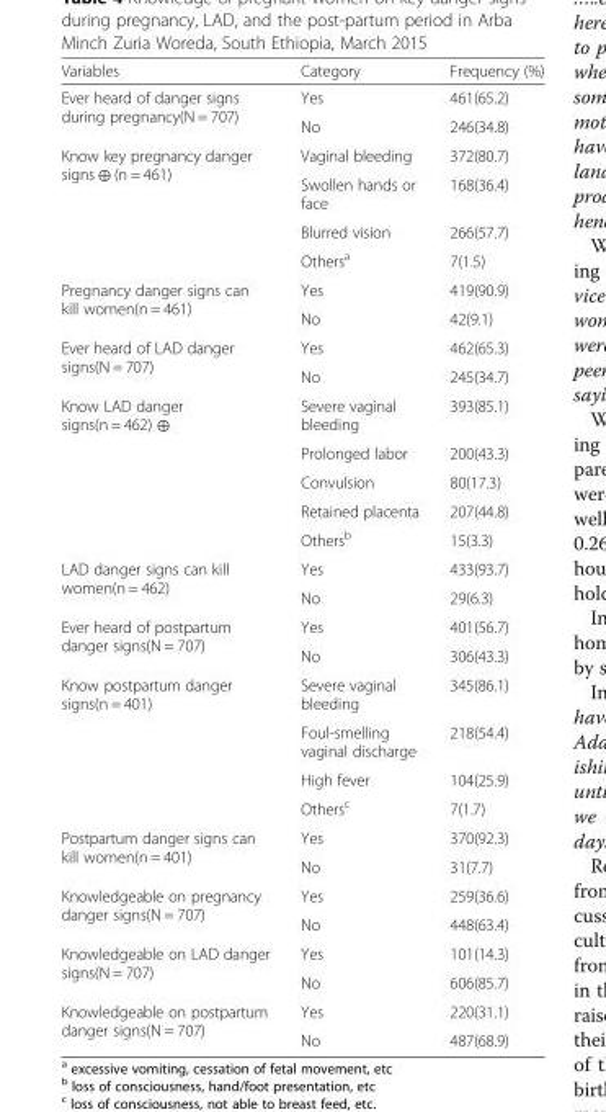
<table><thead><tr><td>Variables</td><td>Category</td><td>Frequency (%)</td></tr></thead><tbody><tr><td rowspan="2">Ever heard of danger signs during pregnancy(N = 707)</td><td>Yes</td><td>461(65.2)</td></tr><tr><td>No</td><td>246(34.8)</td></tr><tr><td rowspan="4">Know key pregnancy danger signs ⊕ (n = 461)</td><td>Vaginal bleeding</td><td>372(80.7)</td></tr><tr><td>Swollen hands or face</td><td>168(36.4)</td></tr><tr><td>Blurred vision</td><td>266(57.7)</td></tr><tr><td>Others<sup>a</sup></td><td>7(1.5)</td></tr><tr><td rowspan="2">Pregnancy danger signs can kill women(n = 461)</td><td>Yes</td><td>419(90.9)</td></tr><tr><td>No</td><td>42(9.1)</td></tr><tr><td rowspan="2">Ever heard of LAD danger signs(N = 707)</td><td>Yes</td><td>462(65.3)</td></tr><tr><td>No</td><td>245(34.7)</td></tr><tr><td rowspan="5">Know LAD danger signs(n = 462) ⊕</td><td>Severe vaginal bleeding</td><td>393(85.1)</td></tr><tr><td>Prolonged labor</td><td>200(43.3)</td></tr><tr><td>Convulsion</td><td>80(17.3)</td></tr><tr><td>Retained placenta</td><td>207(44.8)</td></tr><tr><td>Others<sup>b</sup></td><td>15(3.3)</td></tr><tr><td rowspan="2">LAD danger signs can kill women(n = 462)</td><td>Yes</td><td>433(93.7)</td></tr><tr><td>No</td><td>29(6.3)</td></tr><tr><td rowspan="2">Ever heard of postpartum danger signs(N = 707)</td><td>Yes</td><td>401(56.7)</td></tr><tr><td>No</td><td>306(43.3)</td></tr><tr><td rowspan="4">Know postpartum danger signs(n = 401)</td><td>Severe vaginal bleeding</td><td>345(86.1)</td></tr><tr><td>Foul-smelling vaginal discharge</td><td>218(54.4)</td></tr><tr><td>High fever</td><td>104(25.9)</td></tr><tr><td>Others<sup>c</sup></td><td>7(1.7)</td></tr><tr><td rowspan="2">Postpartum danger signs can kill women(n = 401)</td><td>Yes</td><td>370(92.3)</td></tr><tr><td>No</td><td>31(7.7)</td></tr><tr><td rowspan="2">Knowledgeable on pregnancy danger signs(N = 707)</td><td>Yes</td><td>259(36.6)</td></tr><tr><td>No</td><td>448(63.4)</td></tr><tr><td rowspan="2">Knowledgeable on LAD danger signs(N = 707)</td><td>Yes</td><td>101(14.3)</td></tr><tr><td>No</td><td>606(85.7)</td></tr><tr><td rowspan="2">Knowledgeable on postpartum danger signs(N = 707)</td><td>Yes</td><td>220(31.1)</td></tr><tr><td>No</td><td>487(68.9)</td></tr></tbody></table>